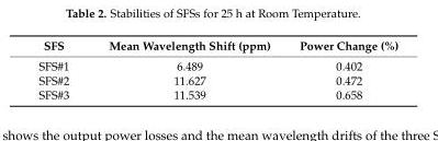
<table><thead><tr><td>SFS</td><td>Mean Wavelength Shift (ppm)</td><td>Power Change (%)</td></tr></thead><tbody><tr><td>SFS#1</td><td>6.489</td><td>0.402</td></tr><tr><td>SFS#2</td><td>11.627</td><td>0.472</td></tr><tr><td>SFS#3</td><td>11.539</td><td>0.658</td></tr></tbody></table>